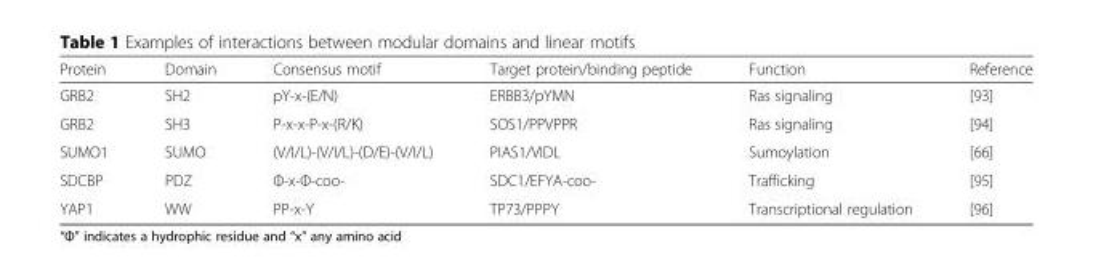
<table><thead><tr><td>Protein</td><td>Domain</td><td>Consensus motif</td><td>Target protein/binding peptide</td><td>Function</td><td>Reference</td></tr></thead><tbody><tr><td>GRB2</td><td>SH2</td><td>pY-x-(E/N)</td><td>ERBB3/pYMN</td><td>Ras signaling</td><td>[93]</td></tr><tr><td>GRB2</td><td>SH3</td><td>P-x-x-P-x-(R/K)</td><td>SOS1/PPVPPR</td><td>Ras signaling</td><td>[94]</td></tr><tr><td>SUMO1</td><td>SUMO</td><td>(V/I/L)-(V/I/L)-(D/E)-(V/I/L)</td><td>PIAS1/VIDL</td><td>Sumoylation</td><td>[66]</td></tr><tr><td>SDCBP</td><td>PDZ</td><td>Φ-x-Φ-coo-</td><td>SDC1/EFYA-coo-</td><td>Trafficking</td><td>[95]</td></tr><tr><td>YAP1</td><td>WW</td><td>PP-x-Y</td><td>TP73/PPPY</td><td>Transcriptional regulation</td><td>[96]</td></tr></tbody></table>